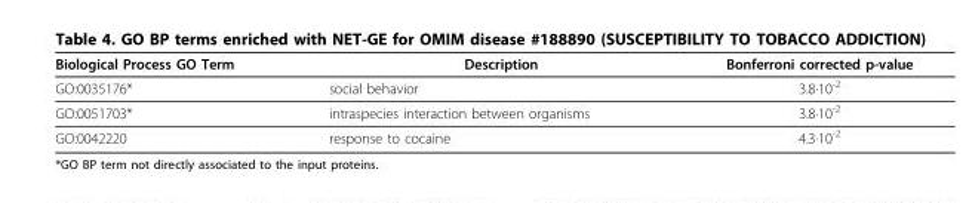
<table><thead><tr><td>Biological Process GO Term</td><td>Description</td><td>Bonferroni corrected p-value</td></tr></thead><tbody><tr><td>GO:0035176*</td><td>social behavior</td><td>3.8·10<sup>-2</sup></td></tr><tr><td>GO:0051703*</td><td>intraspecies interaction between organisms</td><td>3.8·10<sup>-2</sup></td></tr><tr><td>GO:0042220</td><td>response to cocaine</td><td>4.3·10<sup>-2</sup></td></tr></tbody></table>